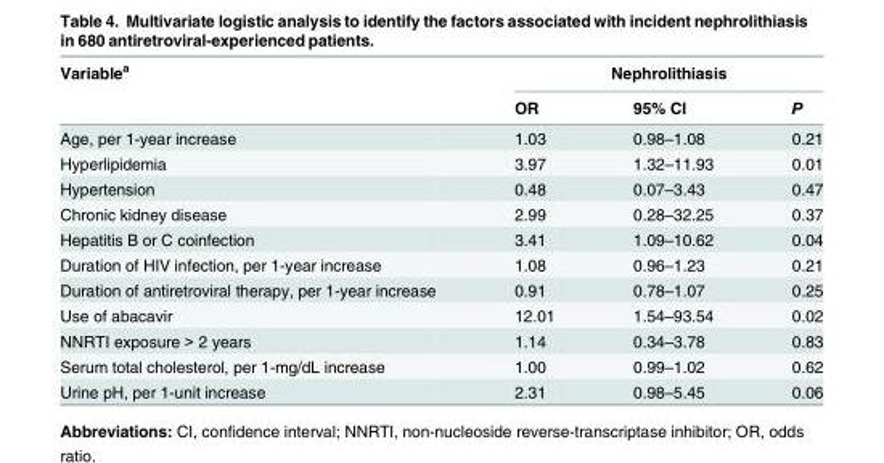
<table><thead><tr><td rowspan="2">Variable<sup>a</sup></td><td colspan="3">Nephrolithiasis</td></tr><tr><td>OR</td><td>95% CI</td><td>P</td></tr></thead><tbody><tr><td>Age, per 1-year increase</td><td>1.03</td><td>0.98–1.08</td><td>0.21</td></tr><tr><td>Hyperlipidemia</td><td>3.97</td><td>1.32–11.93</td><td>0.01</td></tr><tr><td>Hypertension</td><td>0.48</td><td>0.07–3.43</td><td>0.47</td></tr><tr><td>Chronic kidney disease</td><td>2.99</td><td>0.28–32.25</td><td>0.37</td></tr><tr><td>Hepatitis B or C coinfection</td><td>3.41</td><td>1.09–10.62</td><td>0.04</td></tr><tr><td>Duration of HIV infection, per 1-year increase</td><td>1.08</td><td>0.96–1.23</td><td>0.21</td></tr><tr><td>Duration of antiretroviral therapy, per 1-year increase</td><td>0.91</td><td>0.78–1.07</td><td>0.25</td></tr><tr><td>Use of abacavir</td><td>12.01</td><td>1.54–93.54</td><td>0.02</td></tr><tr><td>NNRTI exposure &gt; 2 years</td><td>1.14</td><td>0.34–3.78</td><td>0.83</td></tr><tr><td>Serum total cholesterol, per 1-mg/dL increase</td><td>1.00</td><td>0.99–1.02</td><td>0.62</td></tr><tr><td>Urine pH, per 1-unit increase</td><td>2.31</td><td>0.98–5.45</td><td>0.06</td></tr></tbody></table>